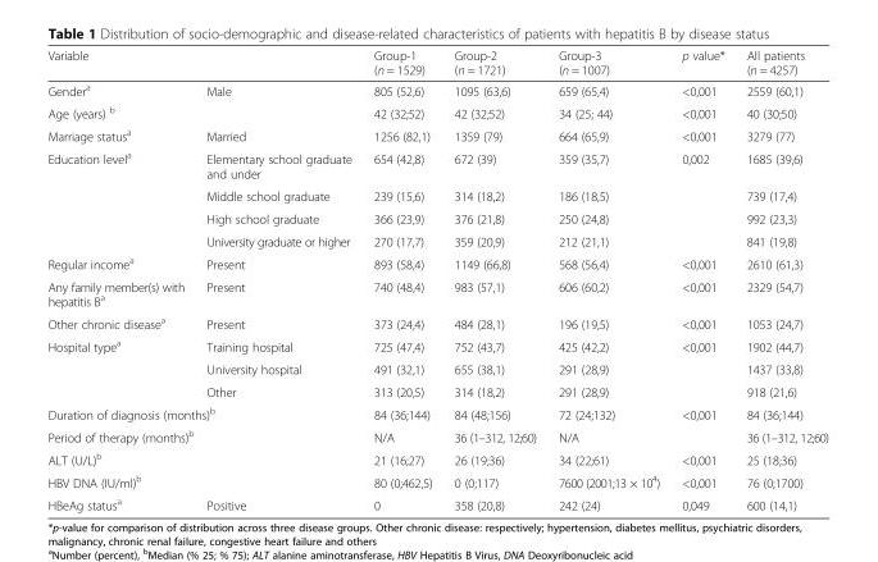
<table><thead><tr><td colspan="2">Variable</td><td rowspan="2">Group-1 (n = 1529) 805 (52,6)</td><td rowspan="2">Group-2 (n = 1721) 1095 (63,6)</td><td rowspan="2">Group-3 (n = 1007) 659 (65,4)</td><td rowspan="2">p value* &lt;0,001</td><td rowspan="2">All patients (n = 4257) 2559 (60,1)</td></tr><tr><td>Gender<sup>a</sup></td><td>Male</td></tr></thead><tbody><tr><td colspan="2">Age (years) <sup>b</sup></td><td>42 (32;52)</td><td>42 (32;52)</td><td>34 (25; 44)</td><td>&lt;0,001</td><td>40 (30;50)</td></tr><tr><td>Marriage status<sup>a</sup></td><td>Married</td><td>1256 (82,1)</td><td>1359 (79)</td><td>664 (65,9)</td><td>&lt;0,001</td><td>3279 (77)</td></tr><tr><td rowspan="4">Education level<sup>a</sup></td><td>Elementary school graduate and under</td><td>654 (42,8)</td><td>672 (39)</td><td>359 (35,7)</td><td rowspan="2">0,002</td><td>1685 (39,6)</td></tr><tr><td>Middle school graduate</td><td>239 (15,6)</td><td>314 (18,2)</td><td>186 (18,5)</td><td>739 (17,4)</td></tr><tr><td>High school graduate</td><td>366 (23,9)</td><td>376 (21,8)</td><td>250 (24,8)</td><td></td><td>992 (23,3)</td></tr><tr><td>University graduate or higher</td><td>270 (17,7)</td><td>359 (20,9)</td><td>212 (21,1)</td><td></td><td>841 (19,8)</td></tr><tr><td>Regular income<sup>a</sup></td><td>Present</td><td>893 (58,4)</td><td>1149 (66,8)</td><td>568 (56,4)</td><td>&lt;0,001</td><td>2610 (61,3)</td></tr><tr><td>Any family member(s) with hepatitis B<sup>a</sup></td><td>Present</td><td>740 (48,4)</td><td>983 (57,1)</td><td>606 (60,2)</td><td>&lt;0,001</td><td>2329 (54,7)</td></tr><tr><td>Other chronic disease<sup>a</sup></td><td>Present</td><td>373 (24,4)</td><td>484 (28,1)</td><td>196 (19,5)</td><td>&lt;0,001</td><td>1053 (24,7)</td></tr><tr><td rowspan="3">Hospital type<sup>a</sup></td><td>Training hospital</td><td>725 (47,4)</td><td>752 (43,7)</td><td>425 (42,2)</td><td rowspan="3">&lt;0,001</td><td>1902 (44,7)</td></tr><tr><td>University hospital</td><td>491 (32,1)</td><td>655 (38,1)</td><td>291 (28,9)</td><td>1437 (33,8)</td></tr><tr><td>Other</td><td>313 (20,5)</td><td>314 (18,2)</td><td>291 (28,9)</td><td>918 (21,6)</td></tr><tr><td colspan="2">Duration of diagnosis (months)<sup>b</sup></td><td>84 (36;144)</td><td>84 (48;156)</td><td>72 (24;132)</td><td>&lt;0,001</td><td>84 (36;144)</td></tr><tr><td colspan="2">Period of therapy (months)<sup>b</sup></td><td>N/A</td><td>36 (1–312, 12;60)</td><td>N/A</td><td></td><td>36 (1–312, 12;60)</td></tr><tr><td colspan="2">ALT (U/L)<sup>b</sup></td><td>21 (16;27)</td><td>26 (19;36)</td><td>34 (22;61)</td><td>&lt;0,001</td><td>25 (18;36)</td></tr><tr><td colspan="2">HBV DNA (IU/ml)<sup>b</sup></td><td>80 (0;462,5)</td><td>0 (0;117)</td><td>7600 (2001;13 × 10<sup>4</sup>)</td><td>&lt;0,001</td><td>76 (0;1700)</td></tr><tr><td>HBeAg status<sup>a</sup></td><td>Positive</td><td>0</td><td>358 (20,8)</td><td>242 (24)</td><td>0,049</td><td>600 (14,1)</td></tr></tbody></table>